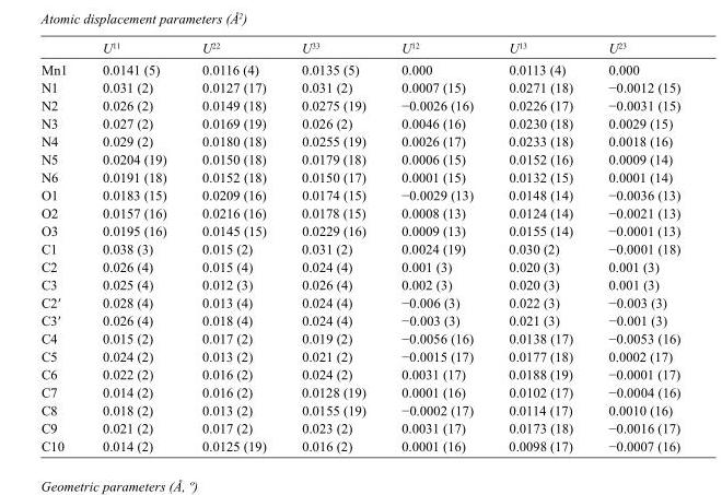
<table><thead><tr><td></td><td>U<sup>11</sup></td><td>U<sup>22</sup></td><td>U<sup>33</sup></td><td>U<sup>12</sup></td><td>U<sup>13</sup></td><td>U<sup>23</sup></td></tr></thead><tbody><tr><td>Mn1</td><td>0.0141 (5)</td><td>0.0116 (4)</td><td>0.0135 (5)</td><td>0.000</td><td>0.0113 (4)</td><td>0.000</td></tr><tr><td>N1</td><td>0.031 (2)</td><td>0.0127 (17)</td><td>0.031 (2)</td><td>0.0007 (15)</td><td>0.0271 (18)</td><td>−0.0012 (15)</td></tr><tr><td>N2</td><td>0.026 (2)</td><td>0.0149 (18)</td><td>0.0275 (19)</td><td>−0.0026 (16)</td><td>0.0226 (17)</td><td>−0.0031 (15)</td></tr><tr><td>N3</td><td>0.027 (2)</td><td>0.0169 (19)</td><td>0.026 (2)</td><td>0.0046 (16)</td><td>0.0230 (18)</td><td>0.0029 (15)</td></tr><tr><td>N4</td><td>0.029 (2)</td><td>0.0180 (18)</td><td>0.0255 (19)</td><td>0.0026 (17)</td><td>0.0233 (18)</td><td>0.0018 (16)</td></tr><tr><td>N5</td><td>0.0204 (19)</td><td>0.0150 (18)</td><td>0.0179 (18)</td><td>0.0006 (15)</td><td>0.0152 (16)</td><td>0.0009 (14)</td></tr><tr><td>N6</td><td>0.0191 (18)</td><td>0.0152 (18)</td><td>0.0150 (17)</td><td>0.0001 (15)</td><td>0.0132 (15)</td><td>0.0001 (14)</td></tr><tr><td>O1</td><td>0.0183 (15)</td><td>0.0209 (16)</td><td>0.0174 (15)</td><td>−0.0029 (13)</td><td>0.0148 (14)</td><td>−0.0036 (13)</td></tr><tr><td>O2</td><td>0.0157 (16)</td><td>0.0216 (16)</td><td>0.0178 (15)</td><td>0.0008 (13)</td><td>0.0124 (14)</td><td>−0.0021 (13)</td></tr><tr><td>O3</td><td>0.0195 (16)</td><td>0.0145 (15)</td><td>0.0229 (16)</td><td>0.0009 (13)</td><td>0.0155 (14)</td><td>−0.0001 (13)</td></tr><tr><td>C1</td><td>0.038 (3)</td><td>0.015 (2)</td><td>0.031 (2)</td><td>0.0024 (19)</td><td>0.030 (2)</td><td>−0.0001 (18)</td></tr><tr><td>C2</td><td>0.026 (4)</td><td>0.015 (4)</td><td>0.024 (4)</td><td>0.001 (3)</td><td>0.020 (3)</td><td>0.001 (3)</td></tr><tr><td>C3</td><td>0.025 (4)</td><td>0.012 (3)</td><td>0.026 (4)</td><td>0.002 (3)</td><td>0.020 (3)</td><td>0.001 (3)</td></tr><tr><td>C2′</td><td>0.028 (4)</td><td>0.013 (4)</td><td>0.024 (4)</td><td>−0.006 (3)</td><td>0.022 (3)</td><td>−0.003 (3)</td></tr><tr><td>C3′</td><td>0.026 (4)</td><td>0.018 (4)</td><td>0.024 (4)</td><td>−0.003 (3)</td><td>0.021 (3)</td><td>−0.001 (3)</td></tr><tr><td>C4</td><td>0.015 (2)</td><td>0.017 (2)</td><td>0.019 (2)</td><td>−0.0056 (16)</td><td>0.0138 (17)</td><td>−0.0053 (16)</td></tr><tr><td>C5</td><td>0.024 (2)</td><td>0.013 (2)</td><td>0.021 (2)</td><td>−0.0015 (17)</td><td>0.0177 (18)</td><td>0.0002 (17)</td></tr><tr><td>C6</td><td>0.022 (2)</td><td>0.016 (2)</td><td>0.024 (2)</td><td>0.0031 (17)</td><td>0.0188 (19)</td><td>−0.0001 (17)</td></tr><tr><td>C7</td><td>0.014 (2)</td><td>0.016 (2)</td><td>0.0128 (19)</td><td>0.0001 (16)</td><td>0.0102 (17)</td><td>−0.0004 (16)</td></tr><tr><td>C8</td><td>0.018 (2)</td><td>0.013 (2)</td><td>0.0155 (19)</td><td>−0.0002 (17)</td><td>0.0114 (17)</td><td>0.0010 (16)</td></tr><tr><td>C9</td><td>0.021 (2)</td><td>0.017 (2)</td><td>0.023 (2)</td><td>0.0031 (17)</td><td>0.0173 (18)</td><td>−0.0016 (17)</td></tr><tr><td>C10</td><td>0.014 (2)</td><td>0.0125 (19)</td><td>0.016 (2)</td><td>0.0001 (16)</td><td>0.0098 (17)</td><td>−0.0007 (16)</td></tr></tbody></table>